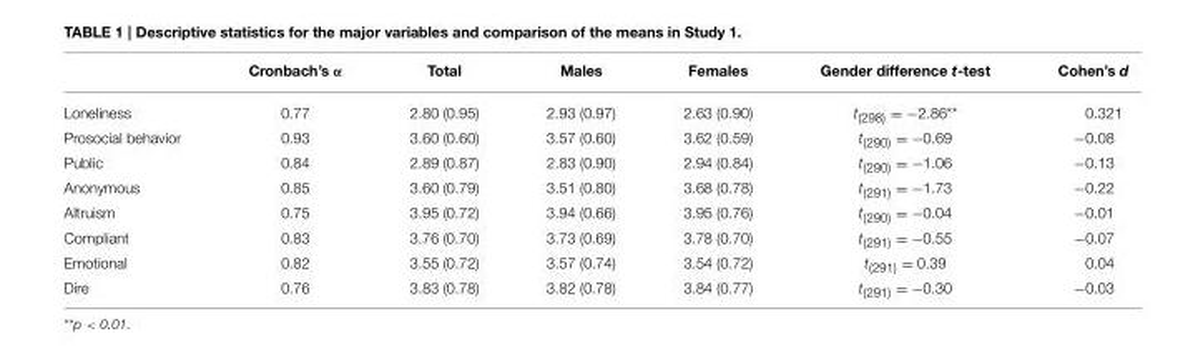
<table><thead><tr><td></td><td>Cronbach’s α</td><td>Total</td><td>Males</td><td>Females</td><td>Gender difference t-test</td><td>Cohen’s d</td></tr></thead><tbody><tr><td>Loneliness</td><td>0.77</td><td>2.80 (0.95)</td><td>2.93 (0.97)</td><td>2.63 (0.90)</td><td>t<sub>(298)</sub> = −2.86**</td><td>0.321</td></tr><tr><td>Prosocial behavior</td><td>0.93</td><td>3.60 (0.60)</td><td>3.57 (0.60)</td><td>3.62 (0.59)</td><td>t<sub>(290)</sub> = −0.69</td><td>−0.08</td></tr><tr><td>Public</td><td>0.84</td><td>2.89 (0.87)</td><td>2.83 (0.90)</td><td>2.94 (0.84)</td><td>t<sub>(290)</sub> = −1.06</td><td>−0.13</td></tr><tr><td>Anonymous</td><td>0.85</td><td>3.60 (0.79)</td><td>3.51 (0.80)</td><td>3.68 (0.78)</td><td>t<sub>(291)</sub> = −1.73</td><td>−0.22</td></tr><tr><td>Altruism</td><td>0.75</td><td>3.95 (0.72)</td><td>3.94 (0.66)</td><td>3.95 (0.76)</td><td>t<sub>(290)</sub> = −0.04</td><td>−0.01</td></tr><tr><td>Compliant</td><td>0.83</td><td>3.76 (0.70)</td><td>3.73 (0.69)</td><td>3.78 (0.70)</td><td>t<sub>(291)</sub> = −0.55</td><td>−0.07</td></tr><tr><td>Emotional</td><td>0.82</td><td>3.55 (0.72)</td><td>3.57 (0.74)</td><td>3.54 (0.72)</td><td>t<sub>(291)</sub> = 0.39</td><td>0.04</td></tr><tr><td>Dire</td><td>0.76</td><td>3.83 (0.78)</td><td>3.82 (0.78)</td><td>3.84 (0.77)</td><td>t<sub>(291)</sub> = −0.30</td><td>−0.03</td></tr></tbody></table>